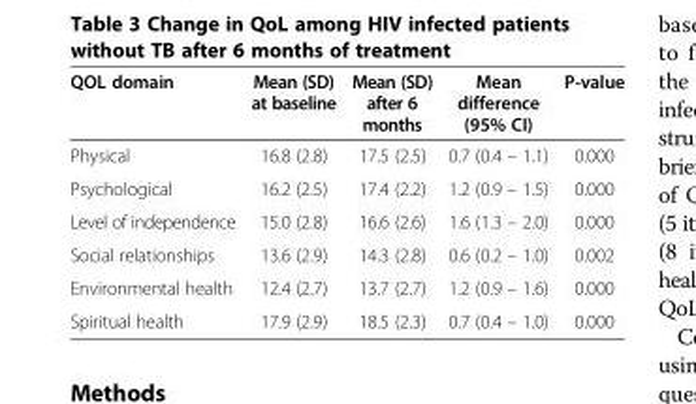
<table><thead><tr><td>QOL domain</td><td>Mean (SD) at baseline</td><td>Mean (SD) after 6 months</td><td>Mean difference (95% CI)</td><td>P-value</td></tr></thead><tbody><tr><td>Physical</td><td>16.8 (2.8)</td><td>17.5 (2.5)</td><td>0.7 (0.4 – 1.1)</td><td>0.000</td></tr><tr><td>Psychological</td><td>16.2 (2.5)</td><td>17.4 (2.2)</td><td>1.2 (0.9 – 1.5)</td><td>0.000</td></tr><tr><td>Level of independence</td><td>15.0 (2.8)</td><td>16.6 (2.6)</td><td>1.6 (1.3 – 2.0)</td><td>0.000</td></tr><tr><td>Social relationships</td><td>13.6 (2.9)</td><td>14.3 (2.8)</td><td>0.6 (0.2 – 1.0)</td><td>0.002</td></tr><tr><td>Environmental health</td><td>12.4 (2.7)</td><td>13.7 (2.7)</td><td>1.2 (0.9 – 1.6)</td><td>0.000</td></tr><tr><td>Spiritual health</td><td>17.9 (2.9)</td><td>18.5 (2.3)</td><td>0.7 (0.4 – 1.0)</td><td>0.000</td></tr></tbody></table>